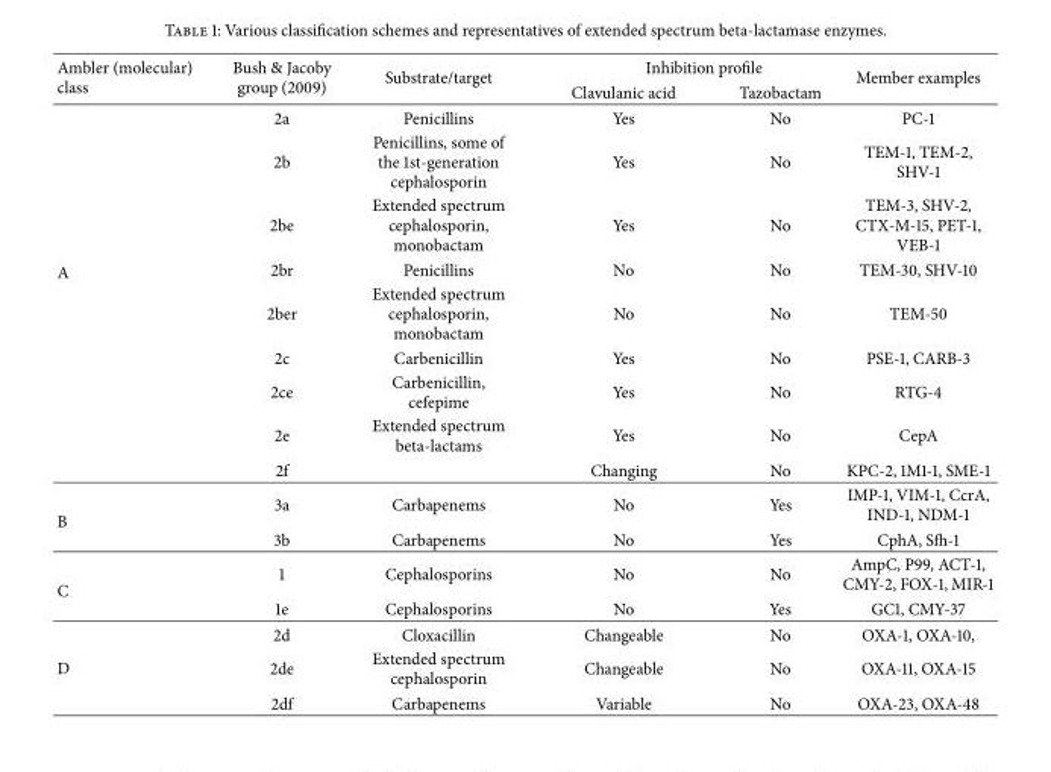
<table><thead><tr><td rowspan="2">Ambler (molecular) class</td><td rowspan="2">Bush &amp; Jacoby group (2009)</td><td rowspan="2">Substrate/target</td><td colspan="2">Inhibition profile</td><td rowspan="2">Member examples</td></tr><tr><td>Clavulanic acid</td><td>Tazobactam</td></tr></thead><tbody><tr><td rowspan="9">A</td><td>2a</td><td>Penicillins</td><td>Yes</td><td>No</td><td>PC-1</td></tr><tr><td>2b</td><td>Penicillins, some of the 1st-generation cephalosporin</td><td>Yes</td><td>No</td><td>TEM-1, TEM-2, SHV-1</td></tr><tr><td>2be</td><td>Extended spectrum cephalosporin, monobactam</td><td>Yes</td><td>No</td><td>TEM-3, SHV-2, CTX-M-15, PET-1, VEB-1</td></tr><tr><td>2br</td><td>Penicillins</td><td>No</td><td>No</td><td>TEM-30, SHV-10</td></tr><tr><td>2ber</td><td>Extended spectrum cephalosporin, monobactam</td><td>No</td><td>No</td><td>TEM-50</td></tr><tr><td>2c</td><td>Carbenicillin</td><td>Yes</td><td>No</td><td>PSE-1, CARB-3</td></tr><tr><td>2ce</td><td>Carbenicillin, cefepime</td><td>Yes</td><td>No</td><td>RTG-4</td></tr><tr><td>2e</td><td>Extended spectrum beta-lactams</td><td>Yes</td><td>No</td><td>CepA</td></tr><tr><td>2f</td><td></td><td>Changing</td><td>No</td><td>KPC-2, 1M1-1, SME-1</td></tr><tr><td rowspan="2">B</td><td>3a</td><td>Carbapenems</td><td>No</td><td>Yes</td><td>IMP-1, VIM-1, CcrA, IND-1, NDM-1</td></tr><tr><td>3b</td><td>Carbapenems</td><td>No</td><td>Yes</td><td>CphA, Sfh-1</td></tr><tr><td rowspan="2">C</td><td>1</td><td>Cephalosporins</td><td>No</td><td>No</td><td>AmpC, P99, ACT-1, CMY-2, FOX-1, MIR-1</td></tr><tr><td>1e</td><td>Cephalosporins</td><td>No</td><td>Yes</td><td>GC1, CMY-37</td></tr><tr><td rowspan="3">D</td><td>2d</td><td>Cloxacillin</td><td>Changeable</td><td>No</td><td>OXA-1, OXA-10,</td></tr><tr><td>2de</td><td>Extended spectrum cephalosporin</td><td>Changeable</td><td>No</td><td>OXA-11, OXA-15</td></tr><tr><td>2df</td><td>Carbapenems</td><td>Variable</td><td>No</td><td>OXA-23, OXA-48</td></tr></tbody></table>